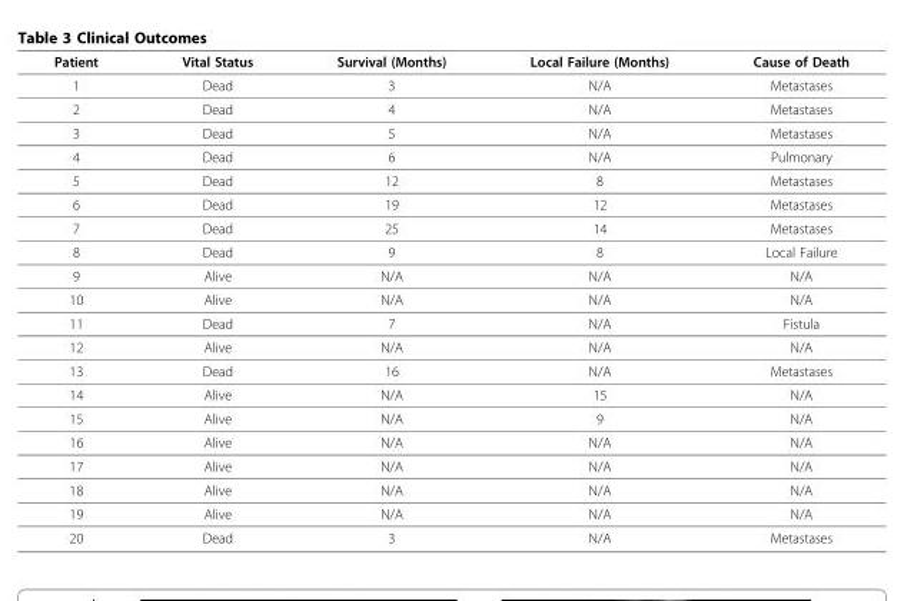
<table><thead><tr><td>Patient</td><td>Vital Status</td><td>Survival (Months)</td><td>Local Failure (Months)</td><td>Cause of Death</td></tr></thead><tbody><tr><td>1</td><td>Dead</td><td>3</td><td>N/A</td><td>Metastases</td></tr><tr><td>2</td><td>Dead</td><td>4</td><td>N/A</td><td>Metastases</td></tr><tr><td>3</td><td>Dead</td><td>5</td><td>N/A</td><td>Metastases</td></tr><tr><td>4</td><td>Dead</td><td>6</td><td>N/A</td><td>Pulmonary</td></tr><tr><td>5</td><td>Dead</td><td>12</td><td>8</td><td>Metastases</td></tr><tr><td>6</td><td>Dead</td><td>19</td><td>12</td><td>Metastases</td></tr><tr><td>7</td><td>Dead</td><td>25</td><td>14</td><td>Metastases</td></tr><tr><td>8</td><td>Dead</td><td>9</td><td>8</td><td>Local Failure</td></tr><tr><td>9</td><td>Alive</td><td>N/A</td><td>N/A</td><td>N/A</td></tr><tr><td>10</td><td>Alive</td><td>N/A</td><td>N/A</td><td>N/A</td></tr><tr><td>11</td><td>Dead</td><td>7</td><td>N/A</td><td>Fistula</td></tr><tr><td>12</td><td>Alive</td><td>N/A</td><td>N/A</td><td>N/A</td></tr><tr><td>13</td><td>Dead</td><td>16</td><td>N/A</td><td>Metastases</td></tr><tr><td>14</td><td>Alive</td><td>N/A</td><td>15</td><td>N/A</td></tr><tr><td>15</td><td>Alive</td><td>N/A</td><td>9</td><td>N/A</td></tr><tr><td>16</td><td>Alive</td><td>N/A</td><td>N/A</td><td>N/A</td></tr><tr><td>17</td><td>Alive</td><td>N/A</td><td>N/A</td><td>N/A</td></tr><tr><td>18</td><td>Alive</td><td>N/A</td><td>N/A</td><td>N/A</td></tr><tr><td>19</td><td>Alive</td><td>N/A</td><td>N/A</td><td>N/A</td></tr><tr><td>20</td><td>Dead</td><td>3</td><td>N/A</td><td>Metastases</td></tr></tbody></table>